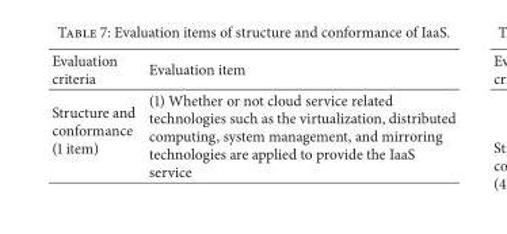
<table><thead><tr><td>Evaluation criteria</td><td>Evaluation item</td></tr></thead><tbody><tr><td>Structure and conformance (1 item)</td><td>(1) Whether or not cloud service related technologies such as the virtualization, distributed computing, system management, and mirroring technologies are applied to provide the IaaS service</td></tr></tbody></table>